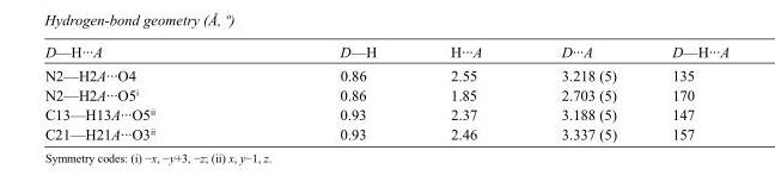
<table><tbody><tr><td>D—H···A</td><td>D—H</td><td>H···A</td><td>D···A</td><td>D—H···A</td></tr><tr><td>N2—H2A···O4</td><td>0.86</td><td>2.55</td><td>3.218 (5)</td><td>135</td></tr><tr><td>N2—H2A···O5<sup>i</sup></td><td>0.86</td><td>1.85</td><td>2.703 (5)</td><td>170</td></tr><tr><td>C13—H13A···O5<sup>ii</sup></td><td>0.93</td><td>2.37</td><td>3.188 (5)</td><td>147</td></tr><tr><td>C21—H21A···O3<sup>ii</sup></td><td>0.93</td><td>2.46</td><td>3.337 (5)</td><td>157</td></tr></tbody></table>